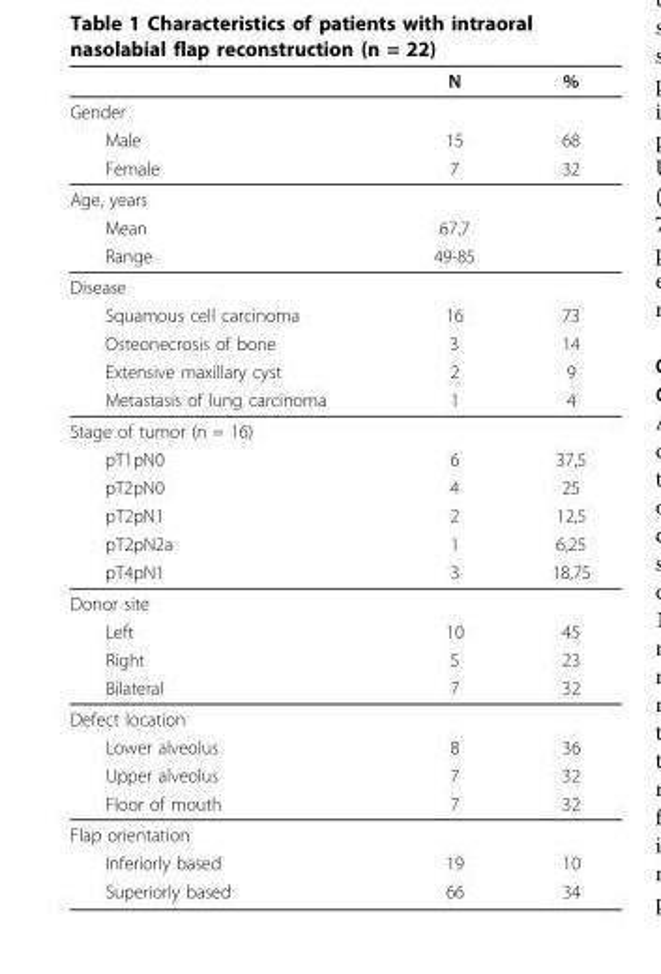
<table><thead><tr><td></td><td>N</td><td>%</td></tr></thead><tbody><tr><td colspan="3">Gender</td></tr><tr><td>Male</td><td>15</td><td>68</td></tr><tr><td>Female</td><td>7</td><td>32</td></tr><tr><td colspan="3">Age, years</td></tr><tr><td>Mean</td><td>67,7</td><td></td></tr><tr><td>Range</td><td>49-85</td><td></td></tr><tr><td colspan="3">Disease</td></tr><tr><td>Squamous cell carcinoma</td><td>16</td><td>73</td></tr><tr><td>Osteonecrosis of bone</td><td>3</td><td>14</td></tr><tr><td>Extensive maxillary cyst</td><td>2</td><td>9</td></tr><tr><td>Metastasis of lung carcinoma</td><td>1</td><td>4</td></tr><tr><td colspan="3">Stage of tumor (n = 16)</td></tr><tr><td>pT1pN0</td><td>6</td><td>37,5</td></tr><tr><td>pT2pN0</td><td>4</td><td>25</td></tr><tr><td>pT2pN1</td><td>2</td><td>12,5</td></tr><tr><td>pT2pN2a</td><td>1</td><td>6,25</td></tr><tr><td>pT4pN1</td><td>3</td><td>18,75</td></tr><tr><td colspan="3">Donor site</td></tr><tr><td>Left</td><td>10</td><td>45</td></tr><tr><td>Right</td><td>5</td><td>23</td></tr><tr><td>Bilateral</td><td>7</td><td>32</td></tr><tr><td colspan="3">Defect location</td></tr><tr><td>Lower alveolus</td><td>8</td><td>36</td></tr><tr><td>Upper alveolus</td><td>7</td><td>32</td></tr><tr><td>Floor of mouth</td><td>7</td><td>32</td></tr><tr><td colspan="3">Flap orientation</td></tr><tr><td>Inferiorly based</td><td>19</td><td>10</td></tr><tr><td>Superiorly based</td><td>66</td><td>34</td></tr></tbody></table>